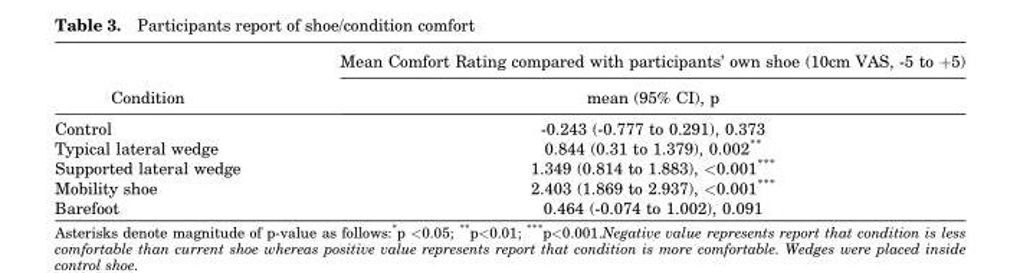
<table><thead><tr><td rowspan="2">Condition</td><td rowspan="2">Mean Comfort Rating compared with participants’ own shoe (10cm VAS, -5 to +5) mean (95% CI), p</td></tr><tr></tr></thead><tbody><tr><td>Control</td><td>-0.243 (-0.777 to 0.291), 0.373</td></tr><tr><td>Typical lateral wedge</td><td>0.844 (0.31 to 1.379), 0.002**</td></tr><tr><td>Supported lateral wedge</td><td>1.349 (0.814 to 1.883), &lt;0.001***</td></tr><tr><td>Mobility shoe</td><td>2.403 (1.869 to 2.937), &lt;0.001***</td></tr><tr><td>Barefoot</td><td>0.464 (-0.074 to 1.002), 0.091</td></tr></tbody></table>